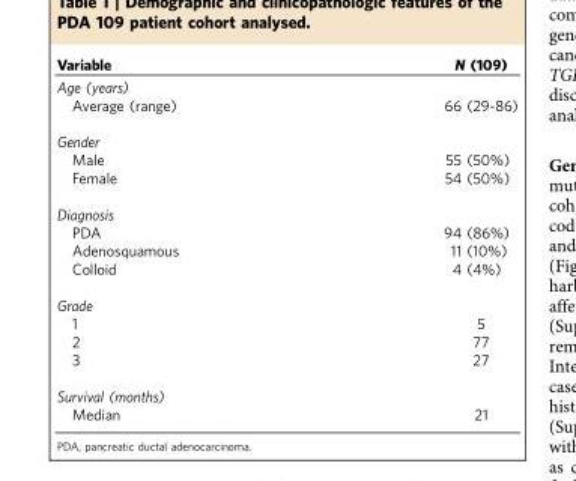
<table><thead><tr><td>Variable</td><td>N (109)</td></tr></thead><tbody><tr><td colspan="2">Age (years)</td></tr><tr><td>Average (range)</td><td>66 (29-86)</td></tr><tr><td colspan="2">Gender</td></tr><tr><td>Male</td><td>55 (50%)</td></tr><tr><td>Female</td><td>54 (50%)</td></tr><tr><td colspan="2">Diagnosis</td></tr><tr><td>PDA</td><td>94 (86%)</td></tr><tr><td>Adenosquamous</td><td>11 (10%)</td></tr><tr><td>Colloid</td><td>4 (4%)</td></tr><tr><td colspan="2">Grade</td></tr><tr><td>1</td><td>5</td></tr><tr><td>2</td><td>77</td></tr><tr><td>3</td><td>27</td></tr><tr><td colspan="2">Survival (months)</td></tr><tr><td>Median</td><td>21</td></tr></tbody></table>